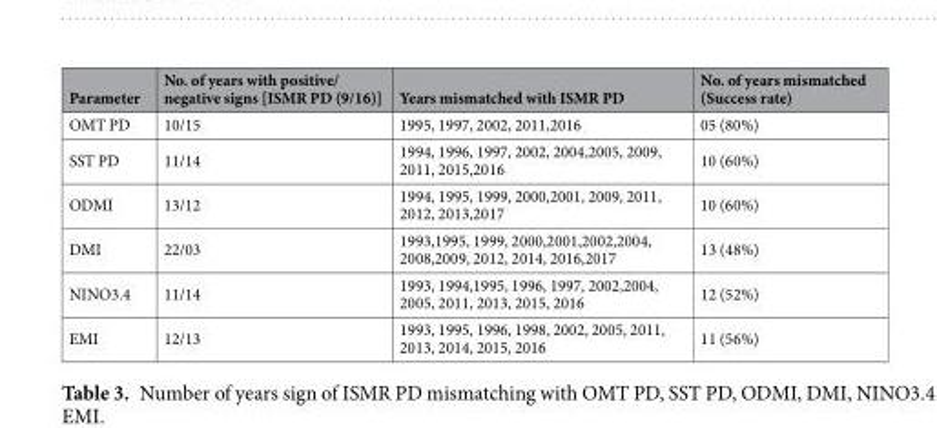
<table><thead><tr><td>Parameter</td><td>No. of years with positive/ negative signs [ISMR PD (9/16)]</td><td>Years mismatched with ISMR PD</td><td>No. of years mismatched (Success rate)</td></tr></thead><tbody><tr><td>OMT PD</td><td>10/15</td><td>1995, 1997, 2002, 2011,2016</td><td>05 (80%)</td></tr><tr><td>SST PD</td><td>11/14</td><td>1994, 1996, 1997, 2002, 2004,2005, 2009, 2011, 2015,2016</td><td>10 (60%)</td></tr><tr><td>ODMI</td><td>13/12</td><td>1994, 1995, 1999, 2000,2001, 2009, 2011, 2012, 2013,2017</td><td>10 (60%)</td></tr><tr><td>DMI</td><td>22/03</td><td>1993,1995, 1999, 2000,2001,2002,2004, 2008,2009, 2012, 2014, 2016,2017</td><td>13 (48%)</td></tr><tr><td>NINO3.4</td><td>11/14</td><td>1993, 1994,1995, 1996, 1997, 2002,2004, 2005, 2011, 2013, 2015, 2016</td><td>12 (52%)</td></tr><tr><td>EMI</td><td>12/13</td><td>1993, 1995, 1996, 1998, 2002, 2005, 2011, 2013, 2014, 2015, 2016</td><td>11 (56%)</td></tr></tbody></table>